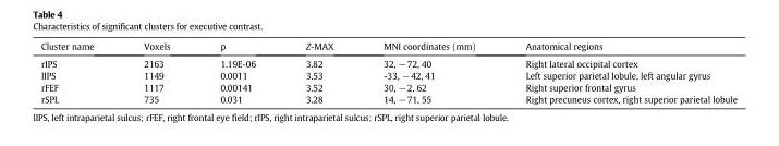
<table><thead><tr><td>Cluster name</td><td>Voxels</td><td>p</td><td>Z-MAX</td><td>MNI coordinates (mm)</td><td>Anatomical regions</td></tr></thead><tbody><tr><td>rIPS</td><td>2163</td><td>1.19E-06</td><td>3.82</td><td>32, −72, 40</td><td>Right lateral occipital cortex</td></tr><tr><td>lIPS</td><td>1149</td><td>0.0011</td><td>3.53</td><td>-33, −42, 41</td><td>Left superior parietal lobule, left angular gyrus</td></tr><tr><td>rFEF</td><td>1117</td><td>0.00141</td><td>3.52</td><td>30, −2, 62</td><td>Right superior frontal gyrus</td></tr><tr><td>rSPL</td><td>735</td><td>0.031</td><td>3.28</td><td>14, −71, 55</td><td>Right precuneus cortex, right superior parietal lobule</td></tr></tbody></table>